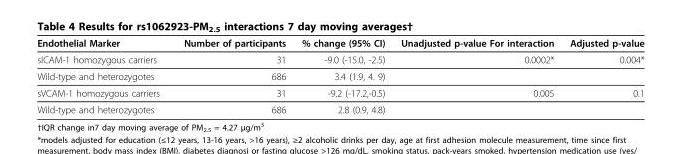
<table><thead><tr><td>Endothelial Marker</td><td>Number of participants</td><td>% change (95% CI)</td><td>Unadjusted p-value For interaction</td><td>Adjusted p-value</td></tr></thead><tbody><tr><td>sICAM-1 homozygous carriers</td><td>31</td><td>-9.0 (-15.0, -2.5)</td><td>0.0002*</td><td>0.004*</td></tr><tr><td>Wild-type and heterozygotes</td><td>686</td><td>3.4 (1.9, 4. 9)</td><td></td><td></td></tr><tr><td>sVCAM-1 homozygous carriers</td><td>31</td><td>-9.2 (-17.2,-0.5)</td><td>0.005</td><td>0.1</td></tr><tr><td>Wild-type and heterozygotes</td><td>686</td><td>2.8 (0.9, 4.8)</td><td></td><td></td></tr></tbody></table>